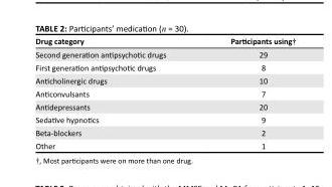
<table><thead><tr><td>Drug category</td><td>Participants using†</td></tr></thead><tbody><tr><td>Second generation antipsychotic drugs</td><td>29</td></tr><tr><td>First generation antipsychotic drugs</td><td>8</td></tr><tr><td>Anticholinergic drugs</td><td>10</td></tr><tr><td>Anticonvulsants</td><td>7</td></tr><tr><td>Antidepressants</td><td>20</td></tr><tr><td>Sedative hypnotics</td><td>9</td></tr><tr><td>Beta-blockers</td><td>2</td></tr><tr><td>Other</td><td>1</td></tr></tbody></table>